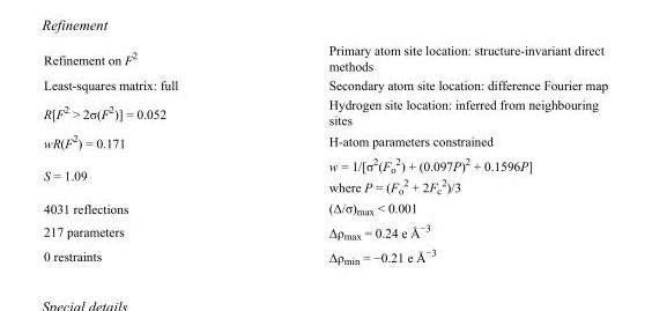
<table><tbody><tr><td>Refinement on F<sup>2</sup></td><td>Primary atom site location: structure-invariant direct methods</td></tr><tr><td>Least-squares matrix: full</td><td>Secondary atom site location: difference Fourier map</td></tr><tr><td>R[F<sup>2</sup> &gt; 2σ(F<sup>2</sup>)] = 0.052</td><td>Hydrogen site location: inferred from neighbouring sites</td></tr><tr><td>wR(F<sup>2</sup>) = 0.171</td><td>H-atom parameters constrained</td></tr><tr><td>S = 1.09</td><td>w = 1/[σ<sup>2</sup>(F<sub>o</sub> <sup>2</sup>) + (0.097P)<sup>2</sup> + 0.1596P] where P = (F<sub>o</sub> <sup>2</sup> + 2F<sub>c</sub> <sup>2</sup>)/3</td></tr><tr><td>4031 reflections</td><td>(Δ/σ)<sub>max</sub> &lt; 0.001</td></tr><tr><td>217 parameters</td><td>Δρ<sub>max</sub> = 0.24 e Å<sup>−3</sup></td></tr><tr><td>0 restraints</td><td>Δρ<sub>min</sub> = −0.21 e Å<sup>−3</sup></td></tr></tbody></table>